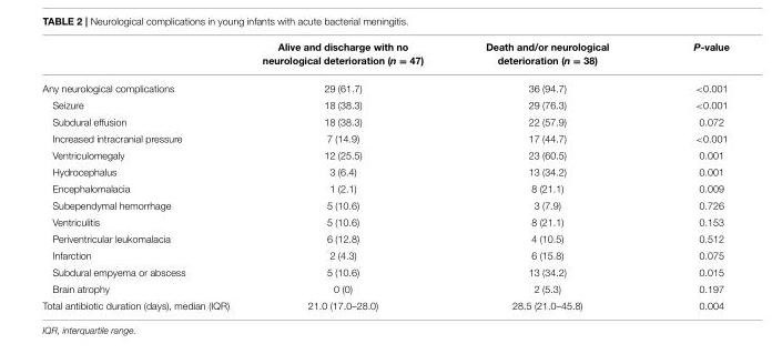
<table><thead><tr><td></td><td>Alive and discharge with no neurological deterioration (n = 47)</td><td>Death and/or neurological deterioration (n = 38)</td><td>P-value</td></tr></thead><tbody><tr><td>Any neurological complications</td><td>29 (61.7)</td><td>36 (94.7)</td><td>&lt;0.001</td></tr><tr><td>Seizure</td><td>18 (38.3)</td><td>29 (76.3)</td><td>&lt;0.001</td></tr><tr><td>Subdural effusion</td><td>18 (38.3)</td><td>22 (57.9)</td><td>0.072</td></tr><tr><td>Increased intracranial pressure</td><td>7 (14.9)</td><td>17 (44.7)</td><td>&lt;0.001</td></tr><tr><td>Ventriculomegaly</td><td>12 (25.5)</td><td>23 (60.5)</td><td>0.001</td></tr><tr><td>Hydrocephalus</td><td>3 (6.4)</td><td>13 (34.2)</td><td>0.001</td></tr><tr><td>Encephalomalacia</td><td>1 (2.1)</td><td>8 (21.1)</td><td>0.009</td></tr><tr><td>Subependymal hemorrhage</td><td>5 (10.6)</td><td>3 (7.9)</td><td>0.726</td></tr><tr><td>Ventriculitis</td><td>5 (10.6)</td><td>8 (21.1)</td><td>0.153</td></tr><tr><td>Periventricular leukomalacia</td><td>6 (12.8)</td><td>4 (10.5)</td><td>0.512</td></tr><tr><td>Infarction</td><td>2 (4.3)</td><td>6 (15.8)</td><td>0.075</td></tr><tr><td>Subdural empyema or abscess</td><td>5 (10.6)</td><td>13 (34.2)</td><td>0.015</td></tr><tr><td>Brain atrophy</td><td>0 (0)</td><td>2 (5.3)</td><td>0.197</td></tr><tr><td>Total antibiotic duration (days), median (IQR)</td><td>21.0 (17.0–28.0)</td><td>28.5 (21.0–45.8)</td><td>0.004</td></tr></tbody></table>